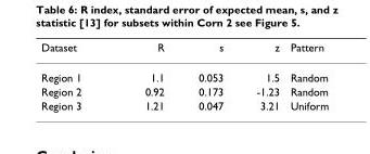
<table><thead><tr><td>Dataset</td><td>R</td><td>s</td><td>z</td><td>Pattern</td></tr></thead><tbody><tr><td>Region 1</td><td>1.1</td><td>0.053</td><td>1.5</td><td>Random</td></tr><tr><td>Region 2</td><td>0.92</td><td>0.173</td><td>-1.23</td><td>Random</td></tr><tr><td>Region 3</td><td>1.21</td><td>0.047</td><td>3.21</td><td>Uniform</td></tr></tbody></table>